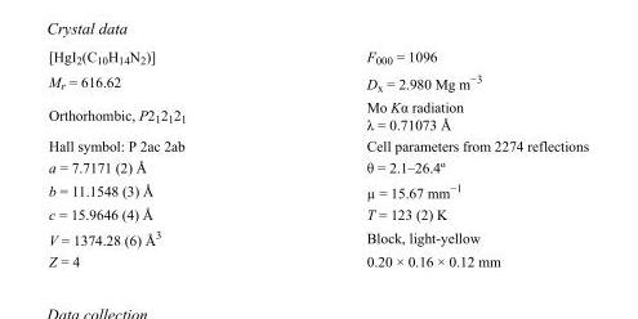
<table><tbody><tr><td>[HgI<sub>2</sub>(C<sub>10</sub>H<sub>14</sub>N<sub>2</sub>)]</td><td>F<sub>000</sub> = 1096</td></tr><tr><td>M<sub>r</sub> = 616.62</td><td>D<sub>x</sub> = 2.980 Mg m<sup>−3</sup></td></tr><tr><td>Orthorhombic, P2<sub>1</sub>2<sub>1</sub>2<sub>1</sub></td><td>Mo Kα radiation λ = 0.71073 Å</td></tr><tr><td>Hall symbol: P 2ac 2ab</td><td>Cell parameters from 2274 reflections</td></tr><tr><td>a = 7.7171 (2) Å</td><td>θ = 2.1–26.4º</td></tr><tr><td>b = 11.1548 (3) Å</td><td>µ = 15.67 mm<sup>−1</sup></td></tr><tr><td>c = 15.9646 (4) Å</td><td>T = 123 (2) K</td></tr><tr><td>V = 1374.28 (6) Å<sup>3</sup></td><td>Block, light-yellow</td></tr><tr><td>Z = 4</td><td>0.20 × 0.16 × 0.12 mm</td></tr></tbody></table>